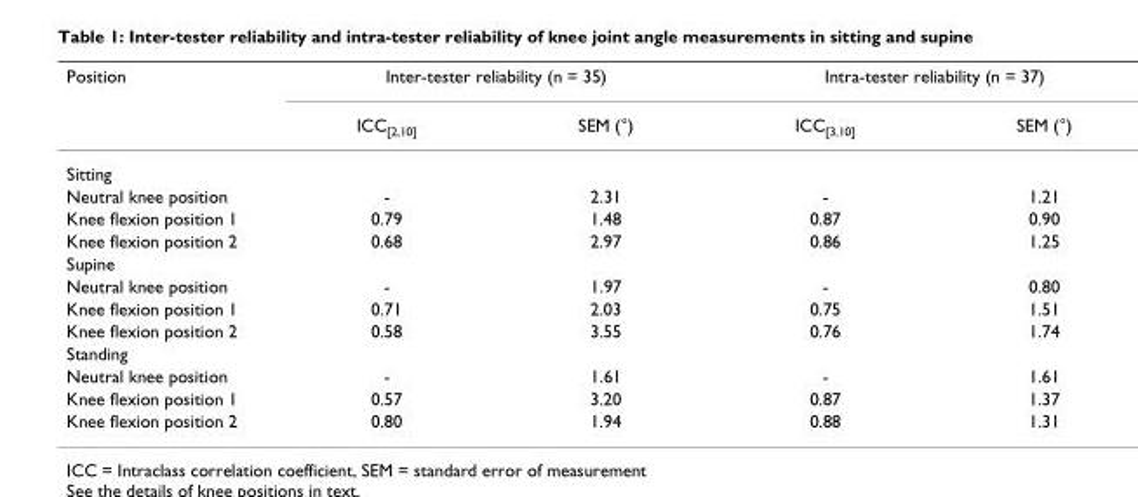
<table><thead><tr><td rowspan="2">Position</td><td colspan="2">Inter-tester reliability (n = 35)</td><td colspan="2">Intra-tester reliability (n = 37)</td></tr><tr><td>ICC<sub>[2,10]</sub></td><td>SEM (°)</td><td>ICC<sub>[3,10]</sub></td><td>SEM (°)</td></tr></thead><tbody><tr><td colspan="5">Sitting</td></tr><tr><td>Neutral knee position</td><td>-</td><td>2.31</td><td>-</td><td>1.21</td></tr><tr><td>Knee flexion position 1</td><td>0.79</td><td>1.48</td><td>0.87</td><td>0.90</td></tr><tr><td>Knee flexion position 2</td><td>0.68</td><td>2.97</td><td>0.86</td><td>1.25</td></tr><tr><td colspan="5">Supine</td></tr><tr><td>Neutral knee position</td><td>-</td><td>1.97</td><td>-</td><td>0.80</td></tr><tr><td>Knee flexion position 1</td><td>0.71</td><td>2.03</td><td>0.75</td><td>1.51</td></tr><tr><td>Knee flexion position 2</td><td>0.58</td><td>3.55</td><td>0.76</td><td>1.74</td></tr><tr><td colspan="5">Standing</td></tr><tr><td>Neutral knee position</td><td>-</td><td>1.61</td><td>-</td><td>1.61</td></tr><tr><td>Knee flexion position 1</td><td>0.57</td><td>3.20</td><td>0.87</td><td>1.37</td></tr><tr><td>Knee flexion position 2</td><td>0.80</td><td>1.94</td><td>0.88</td><td>1.31</td></tr></tbody></table>